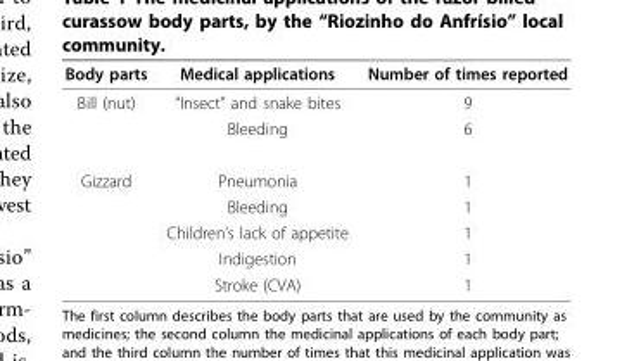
<table><thead><tr><td>Body parts</td><td>Medical applications</td><td>Number of times reported</td></tr></thead><tbody><tr><td rowspan="2">Bill (nut)</td><td>“Insect” and snake bites</td><td>9</td></tr><tr><td>Bleeding</td><td>6</td></tr><tr><td rowspan="5">Gizzard</td><td>Pneumonia</td><td>1</td></tr><tr><td>Bleeding</td><td>1</td></tr><tr><td>Children’s lack of appetite</td><td>1</td></tr><tr><td>Indigestion</td><td>1</td></tr><tr><td>Stroke (CVA)</td><td>1</td></tr></tbody></table>